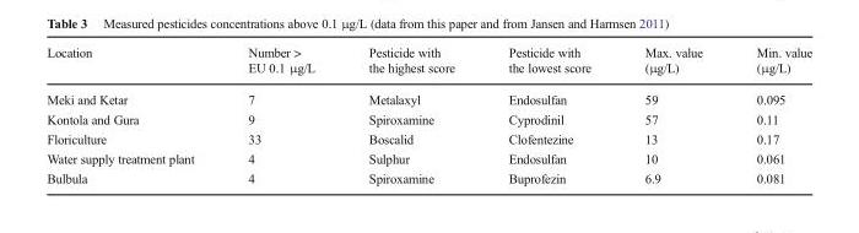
<table><thead><tr><td>Location</td><td>Number &gt; EU 0.1 μg/L</td><td>Pesticide with the highest score</td><td>Pesticide with the lowest score</td><td>Max. value (μg/L)</td><td>Min. value (μg/L)</td></tr></thead><tbody><tr><td>Meki and Ketar</td><td>7</td><td>Metalaxyl</td><td>Endosulfan</td><td>59</td><td>0.095</td></tr><tr><td>Kontola and Gura</td><td>9</td><td>Spiroxamine</td><td>Cyprodinil</td><td>57</td><td>0.11</td></tr><tr><td>Floriculture</td><td>33</td><td>Boscalid</td><td>Clofentezine</td><td>13</td><td>0.17</td></tr><tr><td>Water supply treatment plant</td><td>4</td><td>Sulphur</td><td>Endosulfan</td><td>10</td><td>0.061</td></tr><tr><td>Bulbula</td><td>4</td><td>Spiroxamine</td><td>Buprofezin</td><td>6.9</td><td>0.081</td></tr></tbody></table>